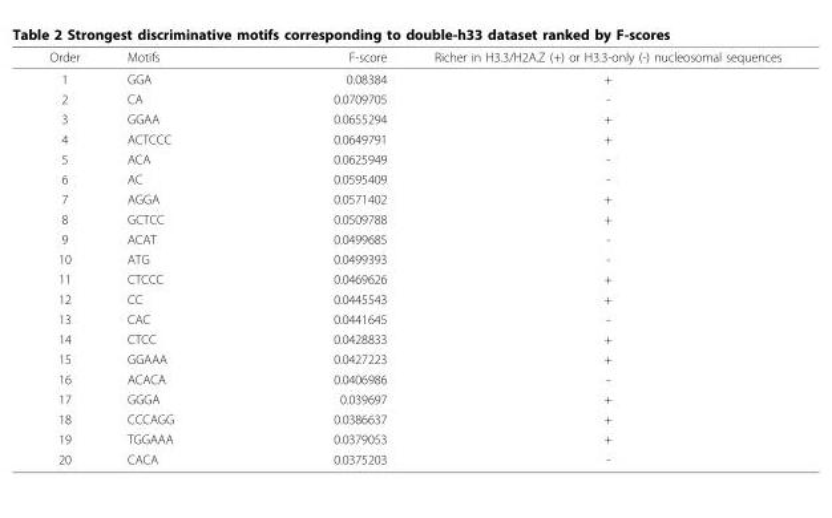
<table><thead><tr><td>Order</td><td>Motifs</td><td>F-score</td><td>Richer in H3.3/H2A.Z (+) or H3.3-only (-) nucleosomal sequences</td></tr></thead><tbody><tr><td>1</td><td>GGA</td><td>0.08384</td><td>+</td></tr><tr><td>2</td><td>CA</td><td>0.0709705</td><td>-</td></tr><tr><td>3</td><td>GGAA</td><td>0.0655294</td><td>+</td></tr><tr><td>4</td><td>ACTCCC</td><td>0.0649791</td><td>+</td></tr><tr><td>5</td><td>ACA</td><td>0.0625949</td><td>-</td></tr><tr><td>6</td><td>AC</td><td>0.0595409</td><td>-</td></tr><tr><td>7</td><td>AGGA</td><td>0.0571402</td><td>+</td></tr><tr><td>8</td><td>GCTCC</td><td>0.0509788</td><td>+</td></tr><tr><td>9</td><td>ACAT</td><td>0.0499685</td><td>-</td></tr><tr><td>10</td><td>ATG</td><td>0.0499393</td><td>-</td></tr><tr><td>11</td><td>CTCCC</td><td>0.0469626</td><td>+</td></tr><tr><td>12</td><td>CC</td><td>0.0445543</td><td>+</td></tr><tr><td>13</td><td>CAC</td><td>0.0441645</td><td>-</td></tr><tr><td>14</td><td>CTCC</td><td>0.0428833</td><td>+</td></tr><tr><td>15</td><td>GGAAA</td><td>0.0427223</td><td>+</td></tr><tr><td>16</td><td>ACACA</td><td>0.0406986</td><td>-</td></tr><tr><td>17</td><td>GGGA</td><td>0.039697</td><td>+</td></tr><tr><td>18</td><td>CCCAGG</td><td>0.0386637</td><td>+</td></tr><tr><td>19</td><td>TGGAAA</td><td>0.0379053</td><td>+</td></tr><tr><td>20</td><td>CACA</td><td>0.0375203</td><td>-</td></tr></tbody></table>